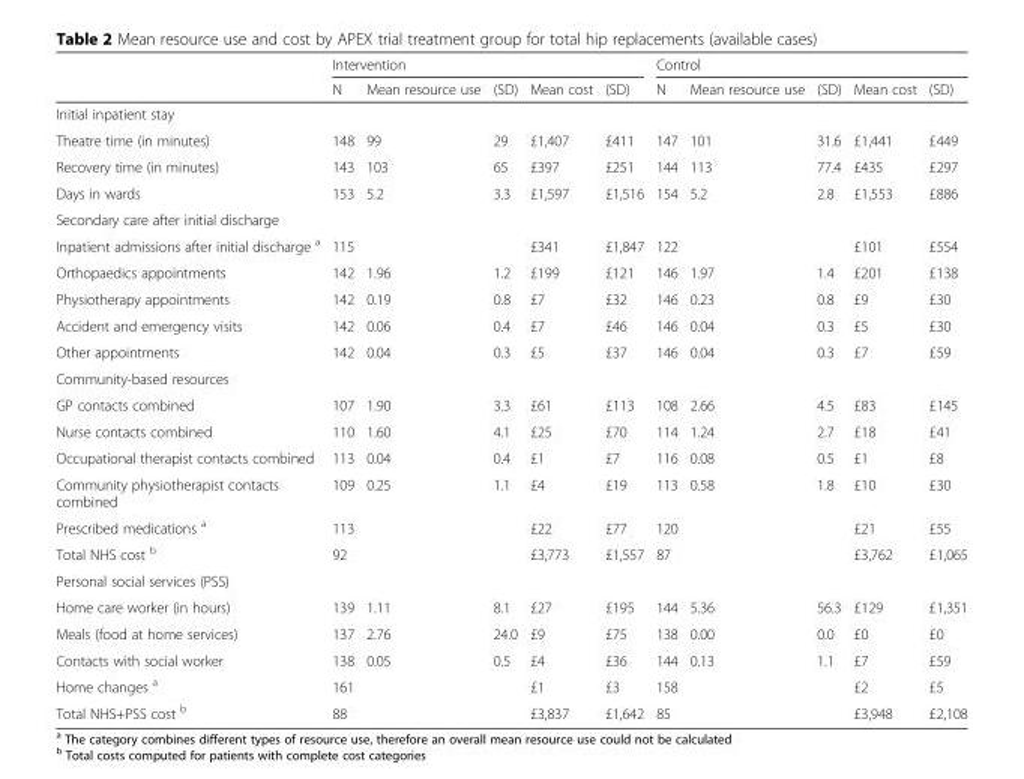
<table><thead><tr><td rowspan="2"></td><td colspan="5">Intervention</td><td colspan="5">Control</td></tr><tr><td>N</td><td>Mean resource use</td><td>(SD)</td><td>Mean cost</td><td>(SD)</td><td>N</td><td>Mean resource use</td><td>(SD)</td><td>Mean cost</td><td>(SD)</td></tr></thead><tbody><tr><td colspan="11">Initial inpatient stay</td></tr><tr><td>Theatre time (in minutes)</td><td>148</td><td>99</td><td>29</td><td>£1,407</td><td>£411</td><td>147</td><td>101</td><td>31.6</td><td>£1,441</td><td>£449</td></tr><tr><td>Recovery time (in minutes)</td><td>143</td><td>103</td><td>65</td><td>£397</td><td>£251</td><td>144</td><td>113</td><td>77.4</td><td>£435</td><td>£297</td></tr><tr><td>Days in wards</td><td>153</td><td>5.2</td><td>3.3</td><td>£1,597</td><td>£1,516</td><td>154</td><td>5.2</td><td>2.8</td><td>£1,553</td><td>£886</td></tr><tr><td colspan="11">Secondary care after initial discharge</td></tr><tr><td>Inpatient admissions after initial discharge <sup>a</sup></td><td>115</td><td></td><td></td><td>£341</td><td>£1,847</td><td>122</td><td></td><td></td><td>£101</td><td>£554</td></tr><tr><td>Orthopaedics appointments</td><td>142</td><td>1.96</td><td>1.2</td><td>£199</td><td>£121</td><td>146</td><td>1.97</td><td>1.4</td><td>£201</td><td>£138</td></tr><tr><td>Physiotherapy appointments</td><td>142</td><td>0.19</td><td>0.8</td><td>£7</td><td>£32</td><td>146</td><td>0.23</td><td>0.8</td><td>£9</td><td>£30</td></tr><tr><td>Accident and emergency visits</td><td>142</td><td>0.06</td><td>0.4</td><td>£7</td><td>£46</td><td>146</td><td>0.04</td><td>0.3</td><td>£5</td><td>£30</td></tr><tr><td>Other appointments</td><td>142</td><td>0.04</td><td>0.3</td><td>£5</td><td>£37</td><td>146</td><td>0.04</td><td>0.3</td><td>£7</td><td>£59</td></tr><tr><td colspan="11">Community-based resources</td></tr><tr><td>GP contacts combined</td><td>107</td><td>1.90</td><td>3.3</td><td>£61</td><td>£113</td><td>108</td><td>2.66</td><td>4.5</td><td>£83</td><td>£145</td></tr><tr><td>Nurse contacts combined</td><td>110</td><td>1.60</td><td>4.1</td><td>£25</td><td>£70</td><td>114</td><td>1.24</td><td>2.7</td><td>£18</td><td>£41</td></tr><tr><td>Occupational therapist contacts combined</td><td>113</td><td>0.04</td><td>0.4</td><td>£1</td><td>£7</td><td>116</td><td>0.08</td><td>0.5</td><td>£1</td><td>£8</td></tr><tr><td>Community physiotherapist contacts combined</td><td>109</td><td>0.25</td><td>1.1</td><td>£4</td><td>£19</td><td>113</td><td>0.58</td><td>1.8</td><td>£10</td><td>£30</td></tr><tr><td>Prescribed medications <sup>a</sup></td><td>113</td><td></td><td></td><td>£22</td><td>£77</td><td>120</td><td></td><td></td><td>£21</td><td>£55</td></tr><tr><td>Total NHS cost <sup>b</sup></td><td>92</td><td></td><td></td><td>£3,773</td><td>£1,557</td><td>87</td><td></td><td></td><td>£3,762</td><td>£1,065</td></tr><tr><td colspan="11">Personal social services (PSS)</td></tr><tr><td>Home care worker (in hours)</td><td>139</td><td>1.11</td><td>8.1</td><td>£27</td><td>£195</td><td>144</td><td>5.36</td><td>56.3</td><td>£129</td><td>£1,351</td></tr><tr><td>Meals (food at home services)</td><td>137</td><td>2.76</td><td>24.0</td><td>£9</td><td>£75</td><td>138</td><td>0.00</td><td>0.0</td><td>£0</td><td>£0</td></tr><tr><td>Contacts with social worker</td><td>138</td><td>0.05</td><td>0.5</td><td>£4</td><td>£36</td><td>144</td><td>0.13</td><td>1.1</td><td>£7</td><td>£59</td></tr><tr><td>Home changes <sup>a</sup></td><td>161</td><td></td><td></td><td>£1</td><td>£3</td><td>158</td><td></td><td></td><td>£2</td><td>£5</td></tr><tr><td>Total NHS+PSS cost <sup>b</sup></td><td>88</td><td></td><td></td><td>£3,837</td><td>£1,642</td><td>85</td><td></td><td></td><td>£3,948</td><td>£2,108</td></tr></tbody></table>